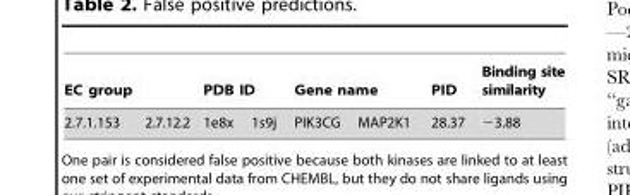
<table><thead><tr><td colspan="2">EC group</td><td colspan="2">PDB ID</td><td colspan="2">Gene name</td><td rowspan="2">PID 28.37</td><td rowspan="2">Binding site similarity −3.88</td></tr><tr><td>2.7.1.153</td><td>2.7.12.2</td><td>1e8x</td><td>1s9j</td><td>PIK3CG</td><td>MAP2K1</td></tr></thead><tbody></tbody></table>